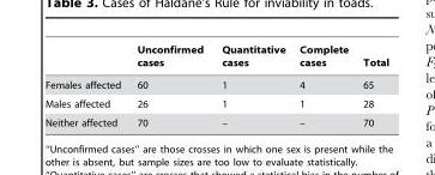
<table><thead><tr><td></td><td>Unconfirmed cases</td><td>Quantitative cases</td><td>Complete cases</td><td>Total</td></tr></thead><tbody><tr><td>Females affected</td><td>60</td><td>1</td><td>4</td><td>65</td></tr><tr><td>Males affected</td><td>26</td><td>1</td><td>1</td><td>28</td></tr><tr><td>Neither affected</td><td>70</td><td>–</td><td>–</td><td>70</td></tr></tbody></table>